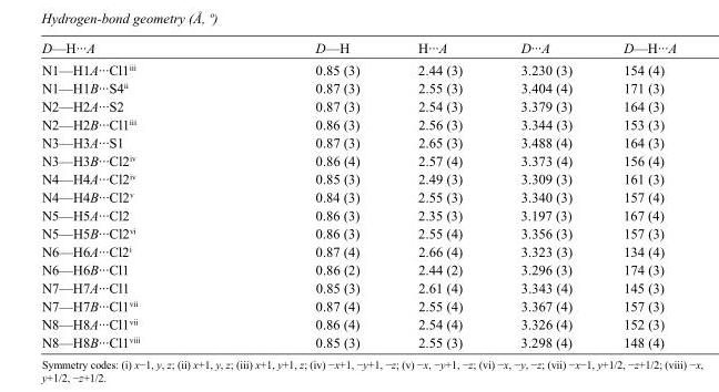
<table><tbody><tr><td>D—H···A</td><td>D—H</td><td>H···A</td><td>D···A</td><td>D—H···A</td></tr><tr><td>N1—H1A···Cl1<sup>iii</sup></td><td>0.85 (3)</td><td>2.44 (3)</td><td>3.230 (3)</td><td>154 (4)</td></tr><tr><td>N1—H1B···S4<sup>ii</sup></td><td>0.87 (3)</td><td>2.55 (3)</td><td>3.404 (4)</td><td>171 (3)</td></tr><tr><td>N2—H2A···S2</td><td>0.87 (3)</td><td>2.54 (3)</td><td>3.379 (3)</td><td>164 (3)</td></tr><tr><td>N2—H2B···Cl1<sup>iii</sup></td><td>0.86 (3)</td><td>2.56 (3)</td><td>3.344 (3)</td><td>153 (3)</td></tr><tr><td>N3—H3A···S1</td><td>0.87 (3)</td><td>2.65 (3)</td><td>3.488 (4)</td><td>164 (3)</td></tr><tr><td>N3—H3B···Cl2<sup>iv</sup></td><td>0.86 (4)</td><td>2.57 (4)</td><td>3.373 (4)</td><td>156 (4)</td></tr><tr><td>N4—H4A···Cl2<sup>iv</sup></td><td>0.85 (3)</td><td>2.49 (3)</td><td>3.309 (3)</td><td>161 (3)</td></tr><tr><td>N4—H4B···Cl2<sup>v</sup></td><td>0.84 (3)</td><td>2.55 (3)</td><td>3.340 (3)</td><td>157 (4)</td></tr><tr><td>N5—H5A···Cl2</td><td>0.86 (3)</td><td>2.35 (3)</td><td>3.197 (3)</td><td>167 (4)</td></tr><tr><td>N5—H5B···Cl2<sup>vi</sup></td><td>0.86 (3)</td><td>2.55 (4)</td><td>3.356 (3)</td><td>157 (3)</td></tr><tr><td>N6—H6A···Cl2<sup>i</sup></td><td>0.87 (4)</td><td>2.66 (4)</td><td>3.323 (3)</td><td>134 (4)</td></tr><tr><td>N6—H6B···Cl1</td><td>0.86 (2)</td><td>2.44 (2)</td><td>3.296 (3)</td><td>174 (3)</td></tr><tr><td>N7—H7A···Cl1</td><td>0.85 (3)</td><td>2.61 (4)</td><td>3.343 (4)</td><td>145 (3)</td></tr><tr><td>N7—H7B···Cl1<sup>vii</sup></td><td>0.87 (4)</td><td>2.55 (4)</td><td>3.367 (4)</td><td>157 (3)</td></tr><tr><td>N8—H8A···Cl1<sup>vii</sup></td><td>0.86 (4)</td><td>2.54 (4)</td><td>3.326 (4)</td><td>152 (3)</td></tr><tr><td>N8—H8B···Cl1<sup>viii</sup></td><td>0.85 (3)</td><td>2.55 (3)</td><td>3.298 (4)</td><td>148 (4)</td></tr></tbody></table>